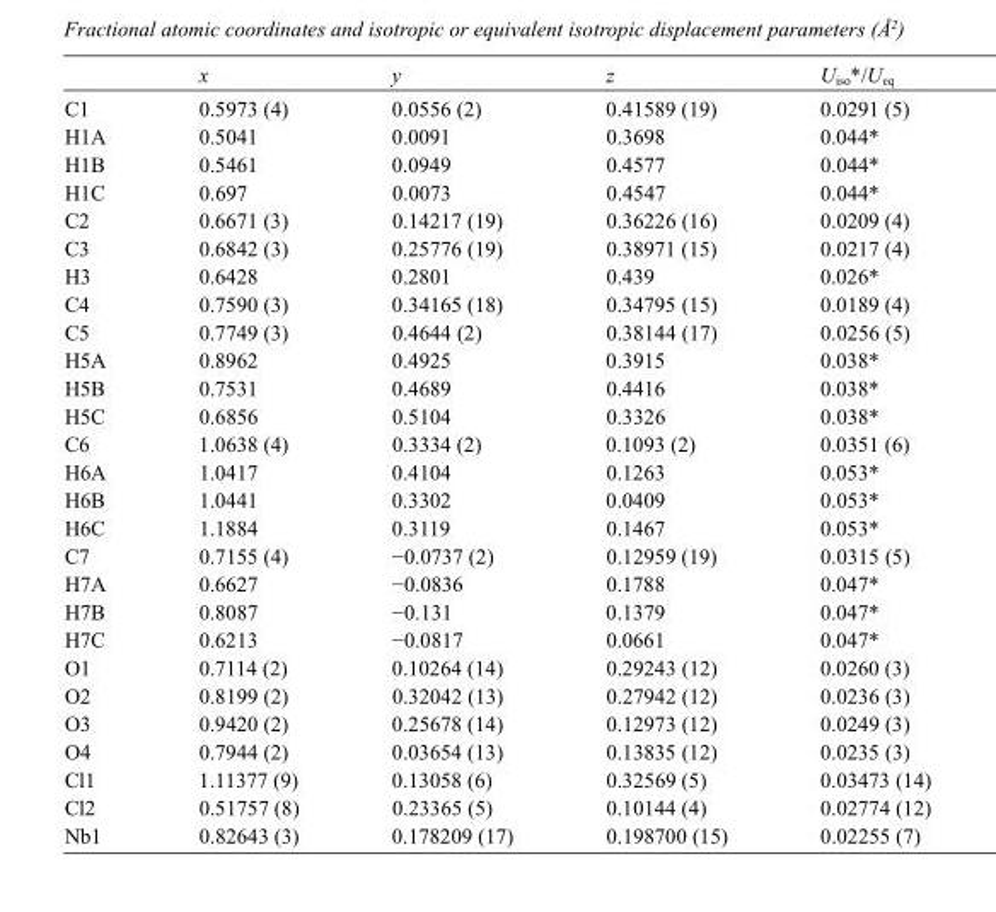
<table><thead><tr><td></td><td>x</td><td>y</td><td>z</td><td>U<sub>iso</sub>*/U<sub>eq</sub></td></tr></thead><tbody><tr><td>C1</td><td>0.5973 (4)</td><td>0.0556 (2)</td><td>0.41589 (19)</td><td>0.0291 (5)</td></tr><tr><td>H1A</td><td>0.5041</td><td>0.0091</td><td>0.3698</td><td>0.044*</td></tr><tr><td>H1B</td><td>0.5461</td><td>0.0949</td><td>0.4577</td><td>0.044*</td></tr><tr><td>H1C</td><td>0.697</td><td>0.0073</td><td>0.4547</td><td>0.044*</td></tr><tr><td>C2</td><td>0.6671 (3)</td><td>0.14217 (19)</td><td>0.36226 (16)</td><td>0.0209 (4)</td></tr><tr><td>C3</td><td>0.6842 (3)</td><td>0.25776 (19)</td><td>0.38971 (15)</td><td>0.0217 (4)</td></tr><tr><td>H3</td><td>0.6428</td><td>0.2801</td><td>0.439</td><td>0.026*</td></tr><tr><td>C4</td><td>0.7590 (3)</td><td>0.34165 (18)</td><td>0.34795 (15)</td><td>0.0189 (4)</td></tr><tr><td>C5</td><td>0.7749 (3)</td><td>0.4644 (2)</td><td>0.38144 (17)</td><td>0.0256 (5)</td></tr><tr><td>H5A</td><td>0.8962</td><td>0.4925</td><td>0.3915</td><td>0.038*</td></tr><tr><td>H5B</td><td>0.7531</td><td>0.4689</td><td>0.4416</td><td>0.038*</td></tr><tr><td>H5C</td><td>0.6856</td><td>0.5104</td><td>0.3326</td><td>0.038*</td></tr><tr><td>C6</td><td>1.0638 (4)</td><td>0.3334 (2)</td><td>0.1093 (2)</td><td>0.0351 (6)</td></tr><tr><td>H6A</td><td>1.0417</td><td>0.4104</td><td>0.1263</td><td>0.053*</td></tr><tr><td>H6B</td><td>1.0441</td><td>0.3302</td><td>0.0409</td><td>0.053*</td></tr><tr><td>H6C</td><td>1.1884</td><td>0.3119</td><td>0.1467</td><td>0.053*</td></tr><tr><td>C7</td><td>0.7155 (4)</td><td>−0.0737 (2)</td><td>0.12959 (19)</td><td>0.0315 (5)</td></tr><tr><td>H7A</td><td>0.6627</td><td>−0.0836</td><td>0.1788</td><td>0.047*</td></tr><tr><td>H7B</td><td>0.8087</td><td>−0.131</td><td>0.1379</td><td>0.047*</td></tr><tr><td>H7C</td><td>0.6213</td><td>−0.0817</td><td>0.0661</td><td>0.047*</td></tr><tr><td>O1</td><td>0.7114 (2)</td><td>0.10264 (14)</td><td>0.29243 (12)</td><td>0.0260 (3)</td></tr><tr><td>O2</td><td>0.8199 (2)</td><td>0.32042 (13)</td><td>0.27942 (12)</td><td>0.0236 (3)</td></tr><tr><td>O3</td><td>0.9420 (2)</td><td>0.25678 (14)</td><td>0.12973 (12)</td><td>0.0249 (3)</td></tr><tr><td>O4</td><td>0.7944 (2)</td><td>0.03654 (13)</td><td>0.13835 (12)</td><td>0.0235 (3)</td></tr><tr><td>Cl1</td><td>1.11377 (9)</td><td>0.13058 (6)</td><td>0.32569 (5)</td><td>0.03473 (14)</td></tr><tr><td>Cl2</td><td>0.51757 (8)</td><td>0.23365 (5)</td><td>0.10144 (4)</td><td>0.02774 (12)</td></tr><tr><td>Nb1</td><td>0.82643 (3)</td><td>0.178209 (17)</td><td>0.198700 (15)</td><td>0.02255 (7)</td></tr></tbody></table>